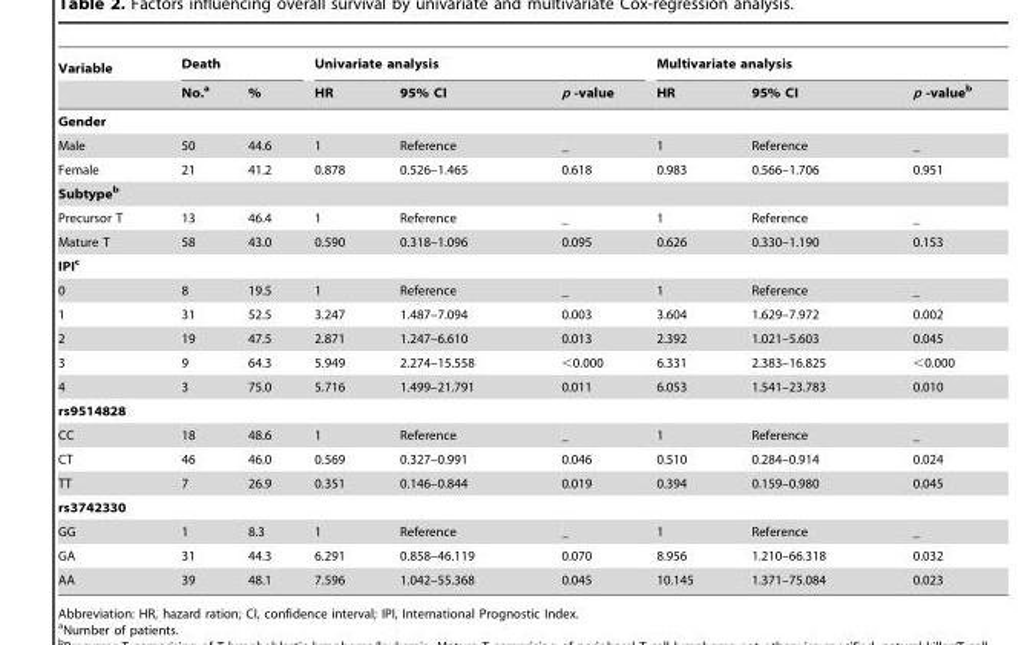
<table><thead><tr><td rowspan="2">Variable</td><td colspan="2">Death</td><td colspan="3">Univariate analysis</td><td colspan="3">Multivariate analysis</td></tr><tr><td>No.<sup>a</sup></td><td>%</td><td>HR</td><td>95% CI</td><td>p -value</td><td>HR</td><td>95% CI</td><td>p -value<sup>b</sup></td></tr></thead><tbody><tr><td colspan="9">Gender</td></tr><tr><td>Male</td><td>50</td><td>44.6</td><td>1</td><td>Reference</td><td>_</td><td>1</td><td>Reference</td><td>_</td></tr><tr><td>Female</td><td>21</td><td>41.2</td><td>0.878</td><td>0.526–1.465</td><td>0.618</td><td>0.983</td><td>0.566–1.706</td><td>0.951</td></tr><tr><td colspan="9">Subtypeb</td></tr><tr><td>Precursor T</td><td>13</td><td>46.4</td><td>1</td><td>Reference</td><td>_</td><td>1</td><td>Reference</td><td>_</td></tr><tr><td>Mature T</td><td>58</td><td>43.0</td><td>0.590</td><td>0.318–1.096</td><td>0.095</td><td>0.626</td><td>0.330–1.190</td><td>0.153</td></tr><tr><td colspan="9">IPIc</td></tr><tr><td>0</td><td>8</td><td>19.5</td><td>1</td><td>Reference</td><td>_</td><td>1</td><td>Reference</td><td>_</td></tr><tr><td>1</td><td>31</td><td>52.5</td><td>3.247</td><td>1.487–7.094</td><td>0.003</td><td>3.604</td><td>1.629–7.972</td><td>0.002</td></tr><tr><td>2</td><td>19</td><td>47.5</td><td>2.871</td><td>1.247–6.610</td><td>0.013</td><td>2.392</td><td>1.021–5.603</td><td>0.045</td></tr><tr><td>3</td><td>9</td><td>64.3</td><td>5.949</td><td>2.274–15.558</td><td>&lt;0.000</td><td>6.331</td><td>2.383–16.825</td><td>&lt;0.000</td></tr><tr><td>4</td><td>3</td><td>75.0</td><td>5.716</td><td>1.499–21.791</td><td>0.011</td><td>6.053</td><td>1.541–23.783</td><td>0.010</td></tr><tr><td colspan="9">rs9514828</td></tr><tr><td>CC</td><td>18</td><td>48.6</td><td>1</td><td>Reference</td><td>_</td><td>1</td><td>Reference</td><td>_</td></tr><tr><td>CT</td><td>46</td><td>46.0</td><td>0.569</td><td>0.327–0.991</td><td>0.046</td><td>0.510</td><td>0.284–0.914</td><td>0.024</td></tr><tr><td>TT</td><td>7</td><td>26.9</td><td>0.351</td><td>0.146–0.844</td><td>0.019</td><td>0.394</td><td>0.159–0.980</td><td>0.045</td></tr><tr><td colspan="9">rs3742330</td></tr><tr><td>GG</td><td>1</td><td>8.3</td><td>1</td><td>Reference</td><td>_</td><td>1</td><td>Reference</td><td>_</td></tr><tr><td>GA</td><td>31</td><td>44.3</td><td>6.291</td><td>0.858–46.119</td><td>0.070</td><td>8.956</td><td>1.210–66.318</td><td>0.032</td></tr><tr><td>AA</td><td>39</td><td>48.1</td><td>7.596</td><td>1.042–55.368</td><td>0.045</td><td>10.145</td><td>1.371–75.084</td><td>0.023</td></tr></tbody></table>